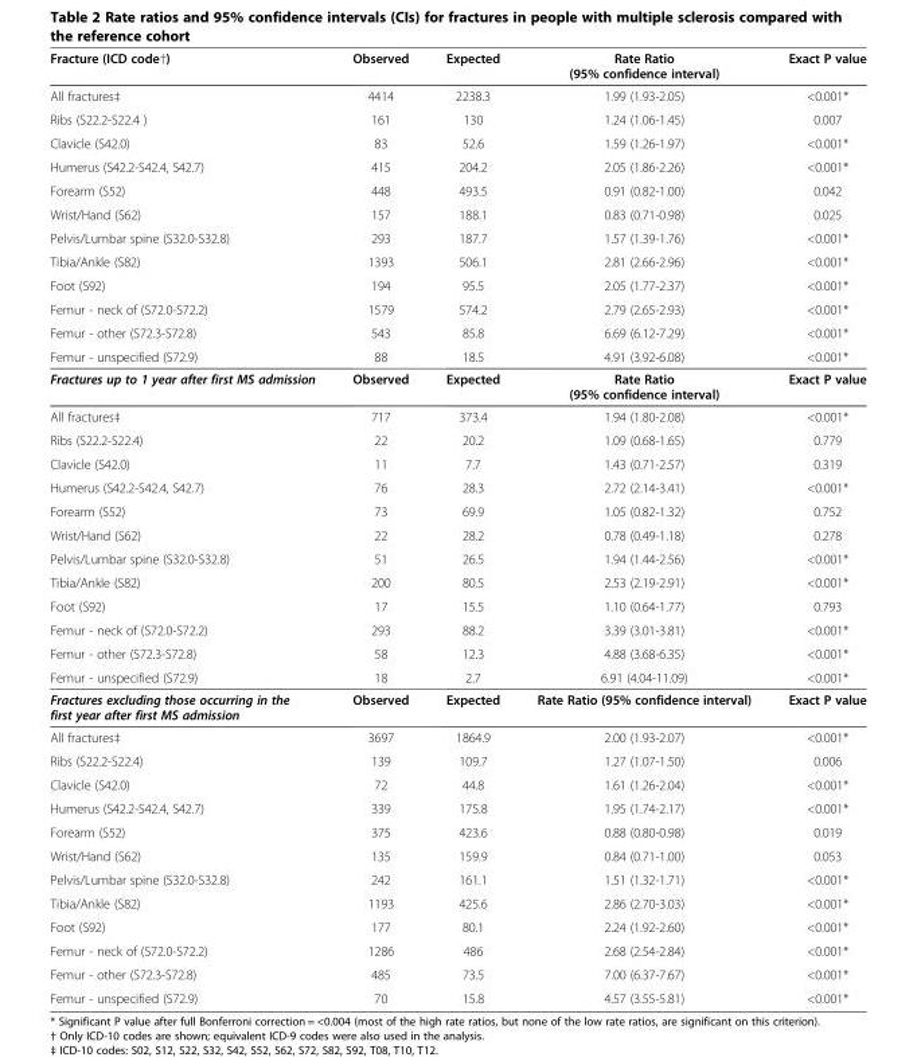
<table><tbody><tr><td>Fracture (ICD code†)</td><td>Observed</td><td>Expected</td><td>Rate Ratio (95% confidence interval)</td><td>Exact P value</td></tr><tr><td>All fractures‡</td><td>4414</td><td>2238.3</td><td>1.99 (1.93-2.05)</td><td>&lt;0.001*</td></tr><tr><td>Ribs (S22.2-S22.4 )</td><td>161</td><td>130</td><td>1.24 (1.06-1.45)</td><td>0.007</td></tr><tr><td>Clavicle (S42.0)</td><td>83</td><td>52.6</td><td>1.59 (1.26-1.97)</td><td>&lt;0.001*</td></tr><tr><td>Humerus (S42.2-S42.4, S42.7)</td><td>415</td><td>204.2</td><td>2.05 (1.86-2.26)</td><td>&lt;0.001*</td></tr><tr><td>Forearm (S52)</td><td>448</td><td>493.5</td><td>0.91 (0.82-1.00)</td><td>0.042</td></tr><tr><td>Wrist/Hand (S62)</td><td>157</td><td>188.1</td><td>0.83 (0.71-0.98)</td><td>0.025</td></tr><tr><td>Pelvis/Lumbar spine (S32.0-S32.8)</td><td>293</td><td>187.7</td><td>1.57 (1.39-1.76)</td><td>&lt;0.001*</td></tr><tr><td>Tibia/Ankle (S82)</td><td>1393</td><td>506.1</td><td>2.81 (2.66-2.96)</td><td>&lt;0.001*</td></tr><tr><td>Foot (S92)</td><td>194</td><td>95.5</td><td>2.05 (1.77-2.37)</td><td>&lt;0.001*</td></tr><tr><td>Femur - neck of (S72.0-S72.2)</td><td>1579</td><td>574.2</td><td>2.79 (2.65-2.93)</td><td>&lt;0.001*</td></tr><tr><td>Femur - other (S72.3-S72.8)</td><td>543</td><td>85.8</td><td>6.69 (6.12-7.29)</td><td>&lt;0.001*</td></tr><tr><td>Femur - unspecified (S72.9)</td><td>88</td><td>18.5</td><td>4.91 (3.92-6.08)</td><td>&lt;0.001*</td></tr><tr><td>Fractures up to 1 year after first MS admission</td><td>Observed</td><td>Expected</td><td>Rate Ratio (95% confidence interval)</td><td>Exact P value</td></tr><tr><td>All fractures‡</td><td>717</td><td>373.4</td><td>1.94 (1.80-2.08)</td><td>&lt;0.001*</td></tr><tr><td>Ribs (S22.2-S22.4)</td><td>22</td><td>20.2</td><td>1.09 (0.68-1.65)</td><td>0.779</td></tr><tr><td>Clavicle (S42.0)</td><td>11</td><td>7.7</td><td>1.43 (0.71-2.57)</td><td>0.319</td></tr><tr><td>Humerus (S42.2-S42.4, S42.7)</td><td>76</td><td>28.3</td><td>2.72 (2.14-3.41)</td><td>&lt;0.001*</td></tr><tr><td>Forearm (S52)</td><td>73</td><td>69.9</td><td>1.05 (0.82-1.32)</td><td>0.752</td></tr><tr><td>Wrist/Hand (S62)</td><td>22</td><td>28.2</td><td>0.78 (0.49-1.18)</td><td>0.278</td></tr><tr><td>Pelvis/Lumbar spine (S32.0-S32.8)</td><td>51</td><td>26.5</td><td>1.94 (1.44-2.56)</td><td>&lt;0.001*</td></tr><tr><td>Tibia/Ankle (S82)</td><td>200</td><td>80.5</td><td>2.53 (2.19-2.91)</td><td>&lt;0.001*</td></tr><tr><td>Foot (S92)</td><td>17</td><td>15.5</td><td>1.10 (0.64-1.77)</td><td>0.793</td></tr><tr><td>Femur - neck of (S72.0-S72.2)</td><td>293</td><td>88.2</td><td>3.39 (3.01-3.81)</td><td>&lt;0.001*</td></tr><tr><td>Femur - other (S72.3-S72.8)</td><td>58</td><td>12.3</td><td>4.88 (3.68-6.35)</td><td>&lt;0.001*</td></tr><tr><td>Femur - unspecified (S72.9)</td><td>18</td><td>2.7</td><td>6.91 (4.04-11.09)</td><td>&lt;0.001*</td></tr><tr><td>Fractures excluding those occurring in the first year after first MS admission</td><td>Observed</td><td>Expected</td><td>Rate Ratio (95% confidence interval)</td><td>Exact P value</td></tr><tr><td>All fractures‡</td><td>3697</td><td>1864.9</td><td>2.00 (1.93-2.07)</td><td>&lt;0.001*</td></tr><tr><td>Ribs (S22.2-S22.4)</td><td>139</td><td>109.7</td><td>1.27 (1.07-1.50)</td><td>0.006</td></tr><tr><td>Clavicle (S42.0)</td><td>72</td><td>44.8</td><td>1.61 (1.26-2.04)</td><td>&lt;0.001*</td></tr><tr><td>Humerus (S42.2-S42.4, S42.7)</td><td>339</td><td>175.8</td><td>1.95 (1.74-2.17)</td><td>&lt;0.001*</td></tr><tr><td>Forearm (S52)</td><td>375</td><td>423.6</td><td>0.88 (0.80-0.98)</td><td>0.019</td></tr><tr><td>Wrist/Hand (S62)</td><td>135</td><td>159.9</td><td>0.84 (0.71-1.00)</td><td>0.053</td></tr><tr><td>Pelvis/Lumbar spine (S32.0-S32.8)</td><td>242</td><td>161.1</td><td>1.51 (1.32-1.71)</td><td>&lt;0.001*</td></tr><tr><td>Tibia/Ankle (S82)</td><td>1193</td><td>425.6</td><td>2.86 (2.70-3.03)</td><td>&lt;0.001*</td></tr><tr><td>Foot (S92)</td><td>177</td><td>80.1</td><td>2.24 (1.92-2.60)</td><td>&lt;0.001*</td></tr><tr><td>Femur - neck of (S72.0-S72.2)</td><td>1286</td><td>486</td><td>2.68 (2.54-2.84)</td><td>&lt;0.001*</td></tr><tr><td>Femur - other (S72.3-S72.8)</td><td>485</td><td>73.5</td><td>7.00 (6.37-7.67)</td><td>&lt;0.001*</td></tr><tr><td>Femur - unspecified (S72.9)</td><td>70</td><td>15.8</td><td>4.57 (3.55-5.81)</td><td>&lt;0.001*</td></tr></tbody></table>